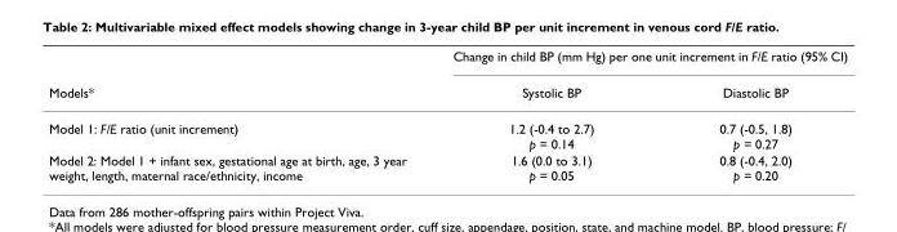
<table><thead><tr><td rowspan="2">Models*</td><td colspan="2">Change in child BP (mm Hg) per one unit increment in F/E ratio (95% CI)</td></tr><tr><td>Systolic BP</td><td>Diastolic BP</td></tr></thead><tbody><tr><td>Model 1: F/E ratio (unit increment)</td><td>1.2 (-0.4 to 2.7) p = 0.14</td><td>0.7 (-0.5, 1.8) p = 0.27</td></tr><tr><td>Model 2: Model 1 + infant sex, gestational age at birth, age, 3 year weight, length, maternal race/ethnicity, income</td><td>1.6 (0.0 to 3.1) p = 0.05</td><td>0.8 (-0.4, 2.0) p = 0.20</td></tr></tbody></table>